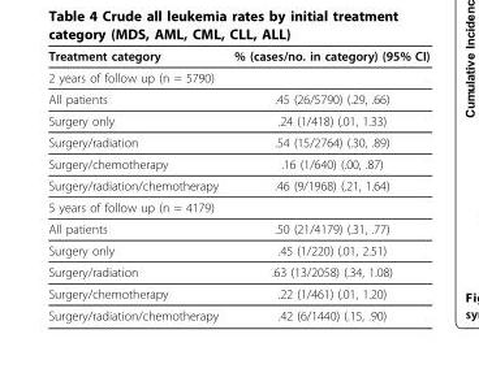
<table><thead><tr><td>Treatment category</td><td>% (cases/no. in category) (95% CI)</td></tr></thead><tbody><tr><td colspan="2">2 years of follow up (n = 5790)</td></tr><tr><td>All patients</td><td>.45 (26/5790) (.29, .66)</td></tr><tr><td>Surgery only</td><td>.24 (1/418) (.01, 1.33)</td></tr><tr><td>Surgery/radiation</td><td>.54 (15/2764) (.30, .89)</td></tr><tr><td>Surgery/chemotherapy</td><td>.16 (1/640) (.00, .87)</td></tr><tr><td>Surgery/radiation/chemotherapy</td><td>.46 (9/1968) (.21, 1.64)</td></tr><tr><td colspan="2">5 years of follow up (n = 4179)</td></tr><tr><td>All patients</td><td>.50 (21/4179) (.31, .77)</td></tr><tr><td>Surgery only</td><td>.45 (1/220) (.01, 2.51)</td></tr><tr><td>Surgery/radiation</td><td>.63 (13/2058) (.34, 1.08)</td></tr><tr><td>Surgery/chemotherapy</td><td>.22 (1/461) (.01, 1.20)</td></tr><tr><td>Surgery/radiation/chemotherapy</td><td>.42 (6/1440) (.15, .90)</td></tr></tbody></table>